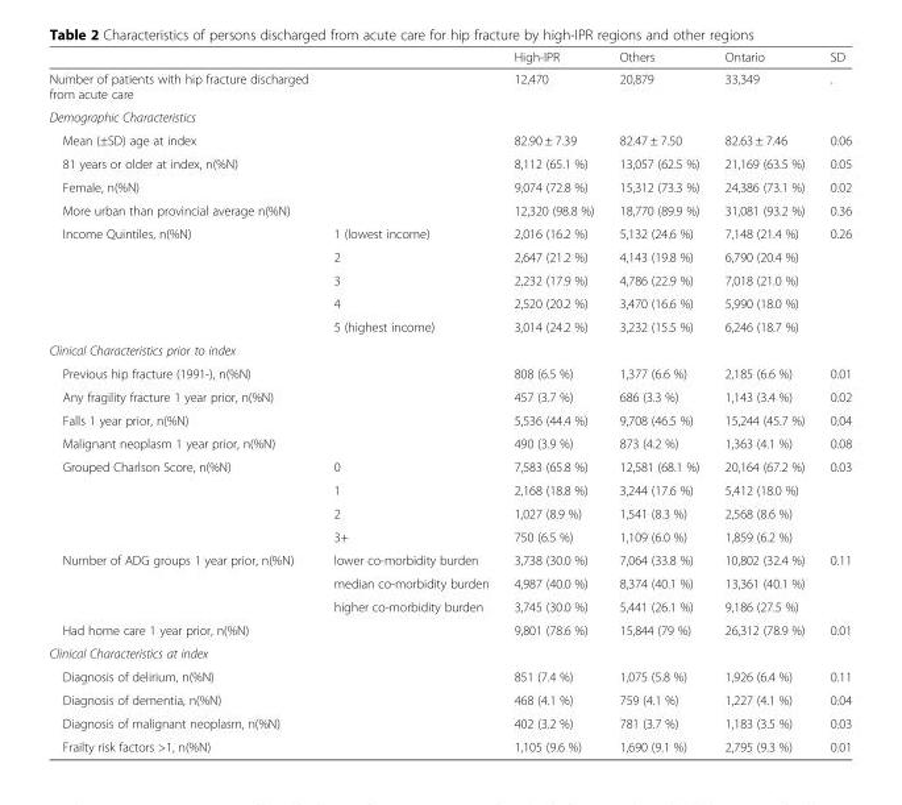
<table><thead><tr><td></td><td></td><td>High-IPR</td><td>Others</td><td>Ontario</td><td>SD</td></tr></thead><tbody><tr><td>Number of patients with hip fracture discharged from acute care</td><td></td><td>12,470</td><td>20,879</td><td>33,349</td><td>.</td></tr><tr><td colspan="6">Demographic Characteristics</td></tr><tr><td>Mean (±SD) age at index</td><td></td><td>82.90 ± 7.39</td><td>82.47 ± 7.50</td><td>82.63 ± 7.46</td><td>0.06</td></tr><tr><td>81 years or older at index, n(%N)</td><td></td><td>8,112 (65.1 %)</td><td>13,057 (62.5 %)</td><td>21,169 (63.5 %)</td><td>0.05</td></tr><tr><td>Female, n(%N)</td><td></td><td>9,074 (72.8 %)</td><td>15,312 (73.3 %)</td><td>24,386 (73.1 %)</td><td>0.02</td></tr><tr><td>More urban than provincial average n(%N)</td><td></td><td>12,320 (98.8 %)</td><td>18,770 (89.9 %)</td><td>31,081 (93.2 %)</td><td>0.36</td></tr><tr><td rowspan="5">Income Quintiles, n(%N)</td><td>1 (lowest income)</td><td>2,016 (16.2 %)</td><td>5,132 (24.6 %)</td><td>7,148 (21.4 %)</td><td rowspan="5">0.26</td></tr><tr><td>2</td><td>2,647 (21.2 %)</td><td>4,143 (19.8 %)</td><td>6,790 (20.4 %)</td></tr><tr><td>3</td><td>2,232 (17.9 %)</td><td>4,786 (22.9 %)</td><td>7,018 (21.0 %)</td></tr><tr><td>4</td><td>2,520 (20.2 %)</td><td>3,470 (16.6 %)</td><td>5,990 (18.0 %)</td></tr><tr><td>5 (highest income)</td><td>3,014 (24.2 %)</td><td>3,232 (15.5 %)</td><td>6,246 (18.7 %)</td></tr><tr><td colspan="6">Clinical Characteristics prior to index</td></tr><tr><td>Previous hip fracture (1991-), n(%N)</td><td></td><td>808 (6.5 %)</td><td>1,377 (6.6 %)</td><td>2,185 (6.6 %)</td><td>0.01</td></tr><tr><td>Any fragility fracture 1 year prior, n(%N)</td><td></td><td>457 (3.7 %)</td><td>686 (3.3 %)</td><td>1,143 (3.4 %)</td><td>0.02</td></tr><tr><td>Falls 1 year prior, n(%N)</td><td></td><td>5,536 (44.4 %)</td><td>9,708 (46.5 %)</td><td>15,244 (45.7 %)</td><td>0.04</td></tr><tr><td>Malignant neoplasm 1 year prior, n(%N)</td><td></td><td>490 (3.9 %)</td><td>873 (4.2 %)</td><td>1,363 (4.1 %)</td><td>0.08</td></tr><tr><td rowspan="4">Grouped Charlson Score, n(%N)</td><td>0</td><td>7,583 (65.8 %)</td><td>12,581 (68.1 %)</td><td>20,164 (67.2 %)</td><td rowspan="4">0.03</td></tr><tr><td>1</td><td>2,168 (18.8 %)</td><td>3,244 (17.6 %)</td><td>5,412 (18.0 %)</td></tr><tr><td>2</td><td>1,027 (8.9 %)</td><td>1,541 (8.3 %)</td><td>2,568 (8.6 %)</td></tr><tr><td>3+</td><td>750 (6.5 %)</td><td>1,109 (6.0 %)</td><td>1,859 (6.2 %)</td></tr><tr><td rowspan="3">Number of ADG groups 1 year prior, n(%N)</td><td>lower co-morbidity burden</td><td>3,738 (30.0 %)</td><td>7,064 (33.8 %)</td><td>10,802 (32.4 %)</td><td rowspan="3">0.11</td></tr><tr><td>median co-morbidity burden</td><td>4,987 (40.0 %)</td><td>8,374 (40.1 %)</td><td>13,361 (40.1 %)</td></tr><tr><td>higher co-morbidity burden</td><td>3,745 (30.0 %)</td><td>5,441 (26.1 %)</td><td>9,186 (27.5 %)</td></tr><tr><td>Had home care 1 year prior, n(%N)</td><td></td><td>9,801 (78.6 %)</td><td>15,844 (79 %)</td><td>26,312 (78.9 %)</td><td>0.01</td></tr><tr><td colspan="6">Clinical Characteristics at index</td></tr><tr><td>Diagnosis of delirium, n(%N)</td><td></td><td>851 (7.4 %)</td><td>1,075 (5.8 %)</td><td>1,926 (6.4 %)</td><td>0.11</td></tr><tr><td>Diagnosis of dementia, n(%N)</td><td></td><td>468 (4.1 %)</td><td>759 (4.1 %)</td><td>1,227 (4.1 %)</td><td>0.04</td></tr><tr><td>Diagnosis of malignant neoplasm, n(%N)</td><td></td><td>402 (3.2 %)</td><td>781 (3.7 %)</td><td>1,183 (3.5 %)</td><td>0.03</td></tr><tr><td>Frailty risk factors &gt;1, n(%N)</td><td></td><td>1,105 (9.6 %)</td><td>1,690 (9.1 %)</td><td>2,795 (9.3 %)</td><td>0.01</td></tr></tbody></table>